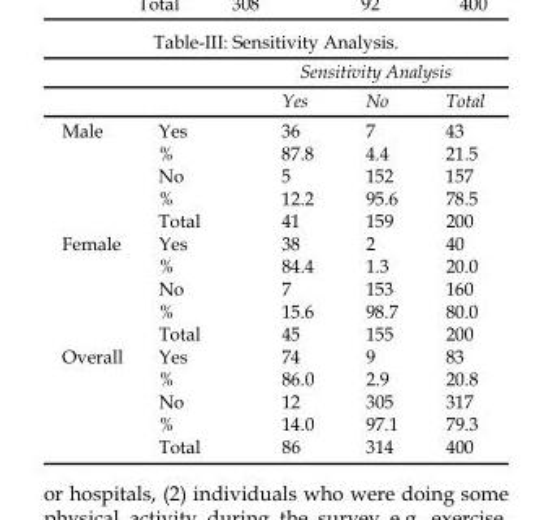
<table><thead><tr><td rowspan="2"></td><td rowspan="2"></td><td colspan="3">Sensitivity Analysis</td></tr><tr><td>Yes</td><td>No</td><td>Total</td></tr></thead><tbody><tr><td rowspan="5">Male</td><td>Yes</td><td>36</td><td>7</td><td>43</td></tr><tr><td>%</td><td>87.8</td><td>4.4</td><td>21.5</td></tr><tr><td>No</td><td>5</td><td>152</td><td>157</td></tr><tr><td>%</td><td>12.2</td><td>95.6</td><td>78.5</td></tr><tr><td>Total</td><td>41</td><td>159</td><td>200</td></tr><tr><td rowspan="5">Female</td><td>Yes</td><td>38</td><td>2</td><td>40</td></tr><tr><td>%</td><td>84.4</td><td>1.3</td><td>20.0</td></tr><tr><td>No</td><td>7</td><td>153</td><td>160</td></tr><tr><td>%</td><td>15.6</td><td>98.7</td><td>80.0</td></tr><tr><td>Total</td><td>45</td><td>155</td><td>200</td></tr><tr><td rowspan="5">Overall</td><td>Yes</td><td>74</td><td>9</td><td>83</td></tr><tr><td>%</td><td>86.0</td><td>2.9</td><td>20.8</td></tr><tr><td>No</td><td>12</td><td>305</td><td>317</td></tr><tr><td>%</td><td>14.0</td><td>97.1</td><td>79.3</td></tr><tr><td>Total</td><td>86</td><td>314</td><td>400</td></tr></tbody></table>